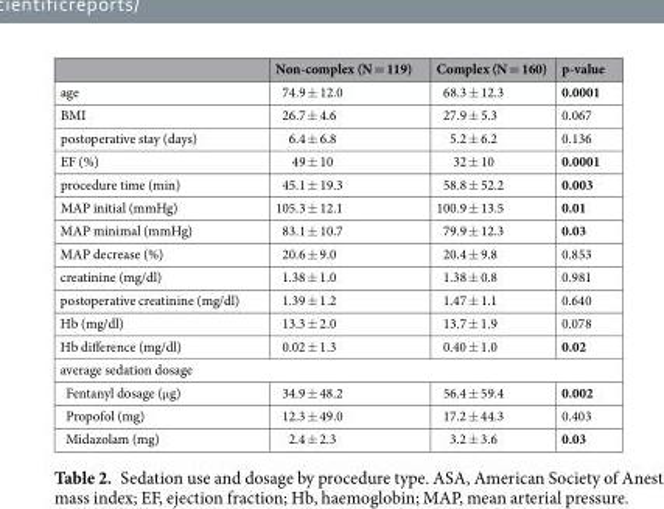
<table><thead><tr><td></td><td>Non-complex (N = 119)</td><td>Complex (N = 160)</td><td>p-value</td></tr></thead><tbody><tr><td>age</td><td>74.9 ± 12.0</td><td>68.3 ± 12.3</td><td>0.0001</td></tr><tr><td>BMI</td><td>26.7 ± 4.6</td><td>27.9 ± 5.3</td><td>0.067</td></tr><tr><td>postoperative stay (days)</td><td>6.4 ± 6.8</td><td>5.2 ± 6.2</td><td>0.136</td></tr><tr><td>EF (%)</td><td>49 ± 10</td><td>32 ± 10</td><td>0.0001</td></tr><tr><td>procedure time (min)</td><td>45.1 ± 19.3</td><td>58.8 ± 52.2</td><td>0.003</td></tr><tr><td>MAP initial (mmHg)</td><td>105.3 ± 12.1</td><td>100.9 ± 13.5</td><td>0.01</td></tr><tr><td>MAP minimal (mmHg)</td><td>83.1 ± 10.7</td><td>79.9 ± 12.3</td><td>0.03</td></tr><tr><td>MAP decrease (%)</td><td>20.6 ± 9.0</td><td>20.4 ± 9.8</td><td>0.853</td></tr><tr><td>creatinine (mg/dl)</td><td>1.38 ± 1.0</td><td>1.38 ± 0.8</td><td>0.981</td></tr><tr><td>postoperative creatinine (mg/dl)</td><td>1.39 ± 1.2</td><td>1.47 ± 1.1</td><td>0.640</td></tr><tr><td>Hb (mg/dl)</td><td>13.3 ± 2.0</td><td>13.7 ± 1.9</td><td>0.078</td></tr><tr><td>Hb difference (mg/dl)</td><td>0.02 ± 1.3</td><td>0.40 ± 1.0</td><td>0.02</td></tr><tr><td colspan="4">average sedation dosage</td></tr><tr><td>Fentanyl dosage (μg)</td><td>34.9 ± 48.2</td><td>56.4 ± 59.4</td><td>0.002</td></tr><tr><td>Propofol (mg)</td><td>12.3 ± 49.0</td><td>17.2 ± 44.3</td><td>0.403</td></tr><tr><td>Midazolam (mg)</td><td>2.4 ± 2.3</td><td>3.2 ± 3.6</td><td>0.03</td></tr></tbody></table>